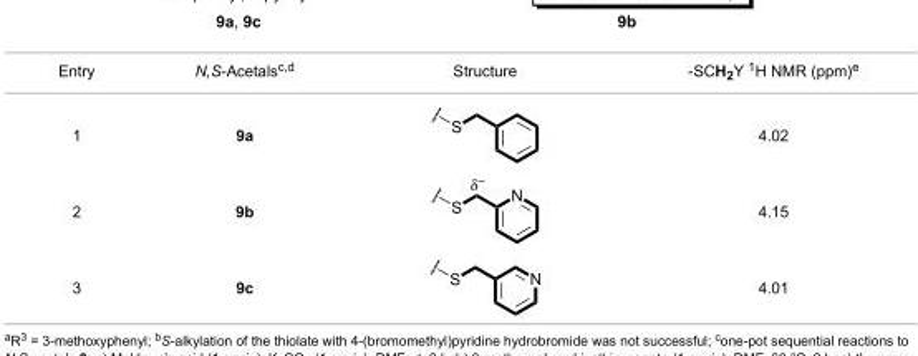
<table><tbody><tr><td>Entry</td><td>N,S-Acetals<sup>c,d</sup></td><td>Structure</td><td>-SCH<sub>2</sub>Y <sup>1</sup>H NMR (ppm)<sup>e</sup></td></tr><tr><td>1</td><td>9a</td><td></td><td>4.02</td></tr><tr><td>2</td><td>9b</td><td></td><td>4.15</td></tr><tr><td>3</td><td>9c</td><td></td><td>4.01</td></tr></tbody></table>